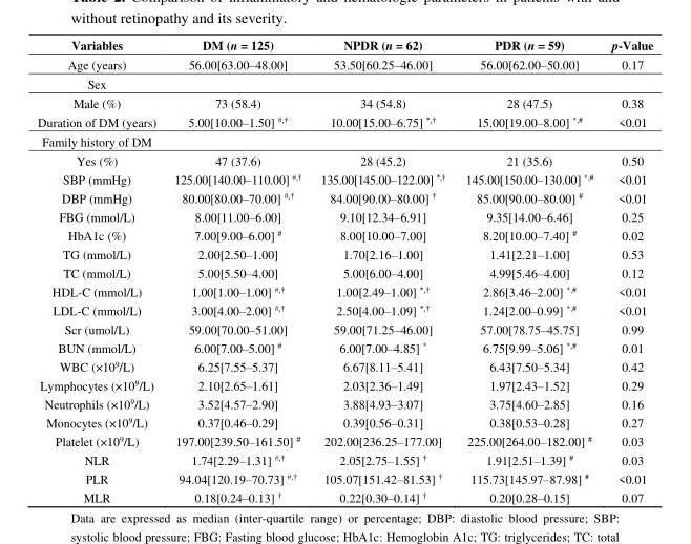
<table><thead><tr><td>Variables</td><td>DM (n = 125)</td><td>NPDR (n = 62)</td><td>PDR (n = 59)</td><td>p-Value</td></tr></thead><tbody><tr><td>Age (years)</td><td>56.00[63.00–48.00]</td><td>53.50[60.25–46.00]</td><td>56.00[62.00–50.00]</td><td>0.17</td></tr><tr><td colspan="5">Sex</td></tr><tr><td>Male (%)</td><td>73 (58.4)</td><td>34 (54.8)</td><td>28 (47.5)</td><td>0.38</td></tr><tr><td>Duration of DM (years)</td><td>5.00[10.00–1.50] <sup>#,†</sup></td><td>10.00[15.00–6.75] *,†</td><td>15.00[19.00–8.00] *,#</td><td>&lt;0.01</td></tr><tr><td colspan="5">Family history of DM</td></tr><tr><td>Yes (%)</td><td>47 (37.6)</td><td>28 (45.2)</td><td>21 (35.6)</td><td>0.50</td></tr><tr><td>SBP (mmHg)</td><td>125.00[140.00–110.00] <sup>#,†</sup></td><td>135.00[145.00–122.00] *,†</td><td>145.00[150.00–130.00] *,#</td><td>&lt;0.01</td></tr><tr><td>DBP (mmHg)</td><td>80.00[80.00–70.00] <sup>#,†</sup></td><td>84.00[90.00–80.00] †</td><td>85.00[90.00–80.00] #</td><td>&lt;0.01</td></tr><tr><td>FBG (mmol/L)</td><td>8.00[11.00–6.00]</td><td>9.10[12.34–6.91]</td><td>9.35[14.00–6.46]</td><td>0.25</td></tr><tr><td>HbA1c (%)</td><td>7.00[9.00–6.00] #</td><td>8.00[10.00–7.00]</td><td>8.20[10.00–7.40] #</td><td>0.02</td></tr><tr><td>TG (mmol/L)</td><td>2.00[2.50–1.00]</td><td>1.70[2.16–1.00]</td><td>1.41[2.21–1.00]</td><td>0.53</td></tr><tr><td>TC (mmol/L)</td><td>5.00[5.50–4.00]</td><td>5.00[6.00–4.00]</td><td>4.99[5.46–4.00]</td><td>0.12</td></tr><tr><td>HDL-C (mmol/L)</td><td>1.00[1.00–1.00] #,†</td><td>1.00[2.49–1.00] *,†</td><td>2.86[3.46–2.00] *,#</td><td>&lt;0.01</td></tr><tr><td>LDL-C (mmol/L)</td><td>3.00[4.00–2.00] #,†</td><td>2.50[4.00–1.09] *,†</td><td>1.24[2.00–0.99] *,#</td><td>&lt;0.01</td></tr><tr><td>Scr (umol/L)</td><td>59.00[70.00–51.00]</td><td>59.00[71.25–46.00]</td><td>57.00[78.75–45.75]</td><td>0.99</td></tr><tr><td>BUN (mmol/L)</td><td>6.00[7.00–5.00] #</td><td>6.00[7.00–4.85] *</td><td>6.75[9.99–5.06] *,#</td><td>0.01</td></tr><tr><td>WBC (×10<sup>9</sup>/L)</td><td>6.25[7.55–5.37]</td><td>6.67[8.11–5.41]</td><td>6.43[7.50–5.34]</td><td>0.42</td></tr><tr><td>Lymphocytes (×10<sup>9</sup>/L)</td><td>2.10[2.65–1.61]</td><td>2.03[2.36–1.49]</td><td>1.97[2.43–1.52]</td><td>0.29</td></tr><tr><td>Neutrophils (×10<sup>9</sup>/L)</td><td>3.52[4.57–2.90]</td><td>3.88[4.93–3.07]</td><td>3.75[4.60–2.85]</td><td>0.16</td></tr><tr><td>Monocytes (×10<sup>9</sup>/L)</td><td>0.37[0.46–0.29]</td><td>0.39[0.56–0.31]</td><td>0.38[0.53–0.28]</td><td>0.27</td></tr><tr><td>Platelet (×10<sup>9</sup>/L)</td><td>197.00[239.50–161.50] #</td><td>202.00[236.25–177.00]</td><td>225.00[264.00–182.00] #</td><td>0.03</td></tr><tr><td>NLR</td><td>1.74[2.29–1.31] #,†</td><td>2.05[2.75–1.55] †</td><td>1.91[2.51–1.39] #</td><td>0.03</td></tr><tr><td>PLR</td><td>94.04[120.19–70.73] #,†</td><td>105.07[151.42–81.53] †</td><td>115.73[145.97–87.98] #</td><td>&lt;0.01</td></tr><tr><td>MLR</td><td>0.18[0.24–0.13] †</td><td>0.22[0.30–0.14] †</td><td>0.20[0.28–0.15]</td><td>0.07</td></tr></tbody></table>